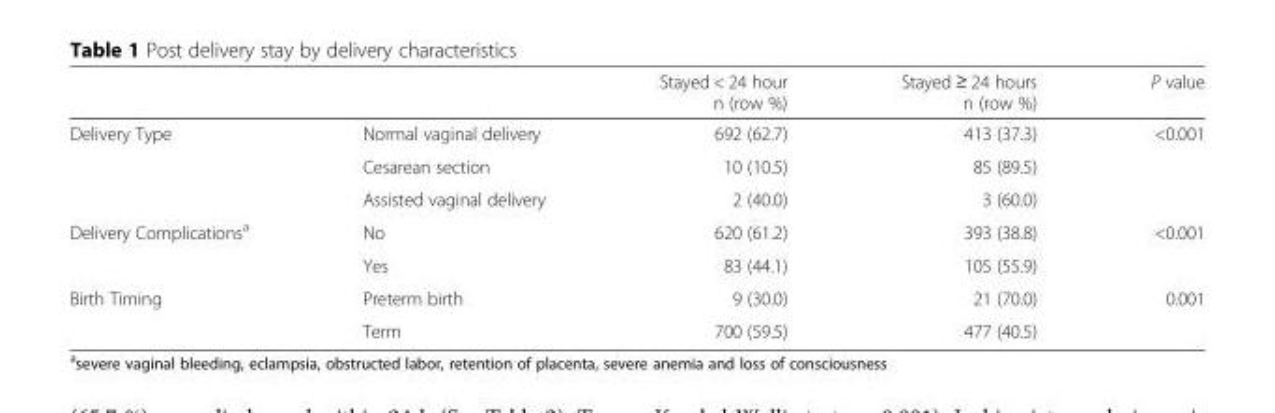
<table><thead><tr><td></td><td></td><td>Stayed &lt; 24 hour n (row %)</td><td>Stayed ≥ 24 hours n (row %)</td><td>P value</td></tr></thead><tbody><tr><td rowspan="3">Delivery Type</td><td>Normal vaginal delivery</td><td>692 (62.7)</td><td>413 (37.3)</td><td rowspan="3">&lt;0.001</td></tr><tr><td>Cesarean section</td><td>10 (10.5)</td><td>85 (89.5)</td></tr><tr><td>Assisted vaginal delivery</td><td>2 (40.0)</td><td>3 (60.0)</td></tr><tr><td rowspan="2">Delivery Complications<sup>a</sup></td><td>No</td><td>620 (61.2)</td><td>393 (38.8)</td><td rowspan="2">&lt;0.001</td></tr><tr><td>Yes</td><td>83 (44.1)</td><td>105 (55.9)</td></tr><tr><td rowspan="2">Birth Timing</td><td>Preterm birth</td><td>9 (30.0)</td><td>21 (70.0)</td><td rowspan="2">0.001</td></tr><tr><td>Term</td><td>700 (59.5)</td><td>477 (40.5)</td></tr></tbody></table>